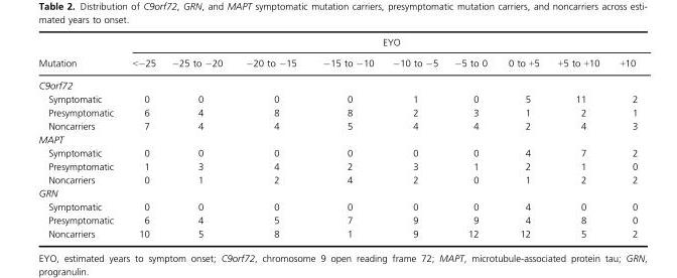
<table><thead><tr><td rowspan="2">Mutation</td><td colspan="9">EYO</td></tr><tr><td>&lt;−25</td><td>−25 to −20</td><td>−20 to −15</td><td>−15 to −10</td><td>−10 to −5</td><td>−5 to 0</td><td>0 to +5</td><td>+5 to +10</td><td>+10</td></tr></thead><tbody><tr><td colspan="10">C9orf72</td></tr><tr><td>Symptomatic</td><td>0</td><td>0</td><td>0</td><td>0</td><td>1</td><td>0</td><td>5</td><td>11</td><td>2</td></tr><tr><td>Presymptomatic</td><td>6</td><td>4</td><td>8</td><td>8</td><td>2</td><td>3</td><td>1</td><td>2</td><td>1</td></tr><tr><td>Noncarriers</td><td>7</td><td>4</td><td>4</td><td>5</td><td>4</td><td>4</td><td>2</td><td>4</td><td>3</td></tr><tr><td colspan="10">MAPT</td></tr><tr><td>Symptomatic</td><td>0</td><td>0</td><td>0</td><td>0</td><td>0</td><td>0</td><td>4</td><td>7</td><td>2</td></tr><tr><td>Presymptomatic</td><td>1</td><td>3</td><td>4</td><td>2</td><td>3</td><td>1</td><td>2</td><td>1</td><td>0</td></tr><tr><td>Noncarriers</td><td>0</td><td>1</td><td>2</td><td>4</td><td>2</td><td>0</td><td>1</td><td>2</td><td>2</td></tr><tr><td colspan="10">GRN</td></tr><tr><td>Symptomatic</td><td>0</td><td>0</td><td>0</td><td>0</td><td>0</td><td>0</td><td>4</td><td>0</td><td>0</td></tr><tr><td>Presymptomatic</td><td>6</td><td>4</td><td>5</td><td>7</td><td>9</td><td>9</td><td>4</td><td>8</td><td>0</td></tr><tr><td>Noncarriers</td><td>10</td><td>5</td><td>8</td><td>1</td><td>9</td><td>12</td><td>12</td><td>5</td><td>2</td></tr></tbody></table>